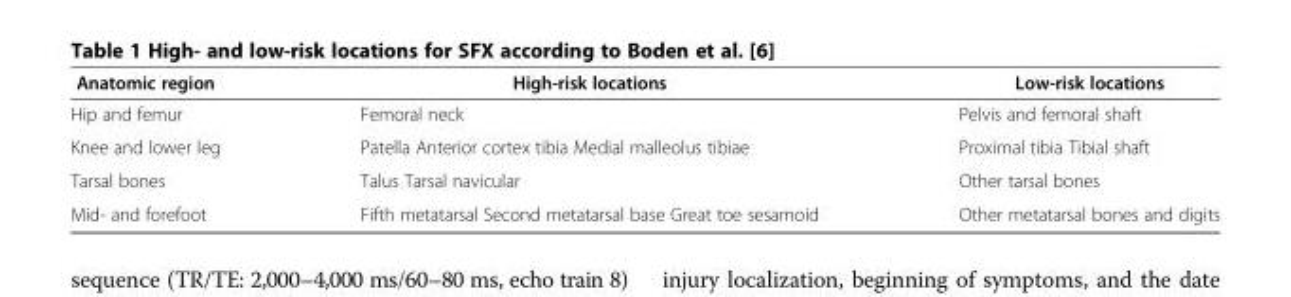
<table><thead><tr><td>Anatomic region</td><td>High-risk locations</td><td>Low-risk locations</td></tr></thead><tbody><tr><td>Hip and femur</td><td>Femoral neck</td><td>Pelvis and femoral shaft</td></tr><tr><td>Knee and lower leg</td><td>Patella Anterior cortex tibia Medial malleolus tibiae</td><td>Proximal tibia Tibial shaft</td></tr><tr><td>Tarsal bones</td><td>Talus Tarsal navicular</td><td>Other tarsal bones</td></tr><tr><td>Mid- and forefoot</td><td>Fifth metatarsal Second metatarsal base Great toe sesamoid</td><td>Other metatarsal bones and digits</td></tr></tbody></table>